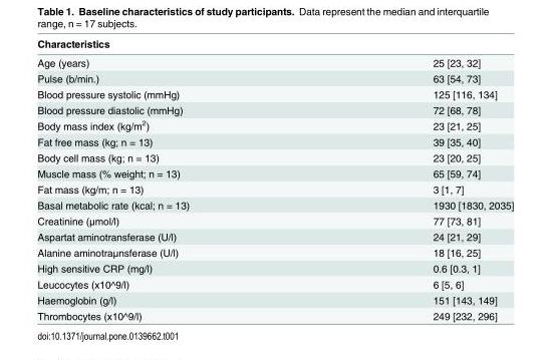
<table><thead><tr><td>Characteristics</td><td></td></tr></thead><tbody><tr><td>Age (years)</td><td>25 [23, 32]</td></tr><tr><td>Pulse (b/min.)</td><td>63 [54, 73]</td></tr><tr><td>Blood pressure systolic (mmHg)</td><td>125 [116, 134]</td></tr><tr><td>Blood pressure diastolic (mmHg)</td><td>72 [68, 78]</td></tr><tr><td>Body mass index (kg/m<sup>2</sup>)</td><td>23 [21, 25]</td></tr><tr><td>Fat free mass (kg; n = 13)</td><td>39 [35, 40]</td></tr><tr><td>Body cell mass (kg; n = 13)</td><td>23 [20, 25]</td></tr><tr><td>Muscle mass (% weight; n = 13)</td><td>65 [59, 74]</td></tr><tr><td>Fat mass (kg/m; n = 13)</td><td>3 [1, 7]</td></tr><tr><td>Basal metabolic rate (kcal; n = 13)</td><td>1930 [1830, 2035]</td></tr><tr><td>Creatinine (μmol/l)</td><td>77 [73, 81]</td></tr><tr><td>Aspartat aminotransferase (U/l)</td><td>24 [21, 29]</td></tr><tr><td>Alanine aminotraμnsferase (U/l)</td><td>18 [16, 25]</td></tr><tr><td>High sensitive CRP (mg/l)</td><td>0.6 [0.3, 1]</td></tr><tr><td>Leucocytes (x10^9/l)</td><td>6 [5, 6]</td></tr><tr><td>Haemoglobin (g/l)</td><td>151 [143, 149]</td></tr><tr><td>Thrombocytes (x10^9/l)</td><td>249 [232, 296]</td></tr></tbody></table>